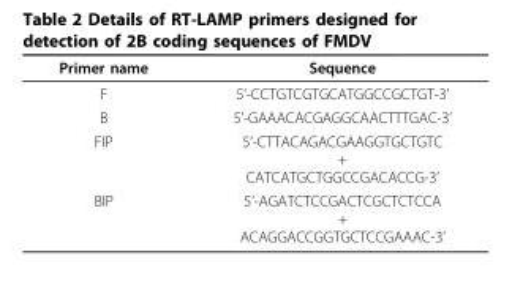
<table><thead><tr><td>Primer name</td><td>Sequence</td></tr></thead><tbody><tr><td>F</td><td>5’-CCTGTCGTGCATGGCCGCTGT-3’</td></tr><tr><td>B</td><td>5’-GAAACACGAGGCAACTTTGAC-3’</td></tr><tr><td>FIP</td><td>5’-CTTACAGACGAAGGTGCTGTC + CATCATGCTGGCCGACACCG-3’</td></tr><tr><td>BIP</td><td>5’-AGATCTCCGACTCGCTCTCCA + ACAGGACCGGTGCTCCGAAAC-3’</td></tr></tbody></table>